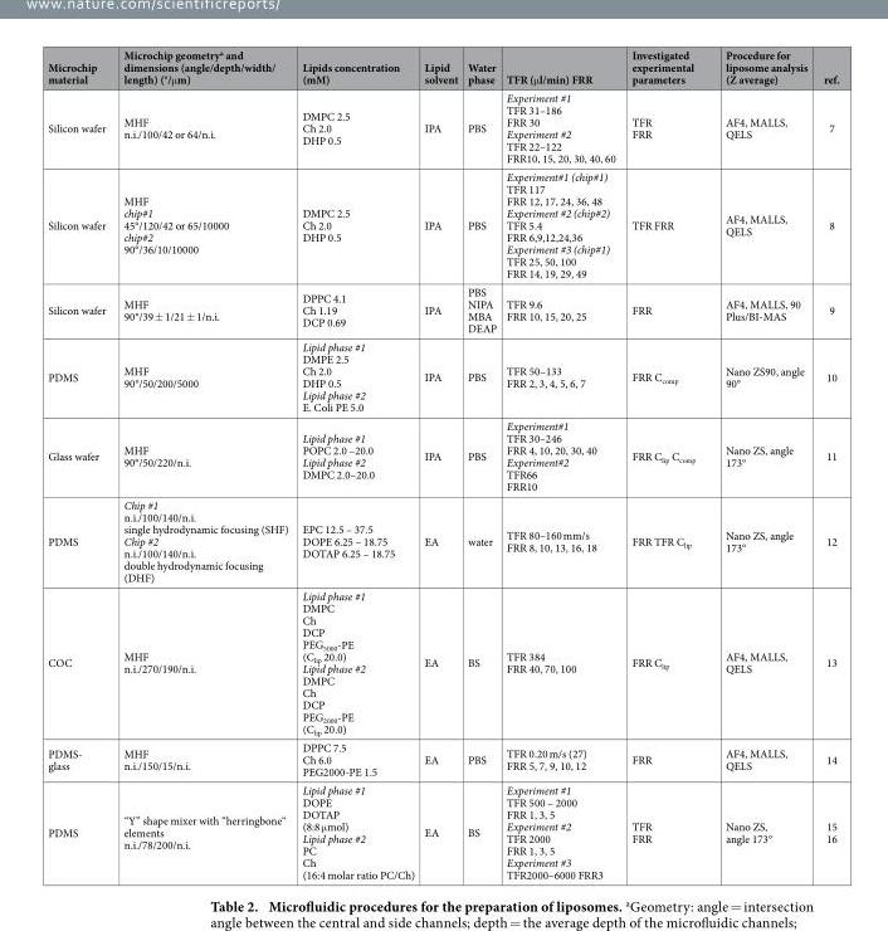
<table><thead><tr><td>Microchip material</td><td>Microchip geometry<sup>a</sup> and dimensions (angle/depth/width/ length) (°/μ m)</td><td>Lipids concentration (mM)</td><td>Lipid solvent</td><td>Water phase</td><td>TFR (μ l/min) FRR</td><td>Investigated experimental parameters</td><td>Procedure for liposome analysis (Z average)</td><td>ref.</td></tr></thead><tbody><tr><td>Silicon wafer</td><td>MHF n.i./100/42 or 64/n.i.</td><td>DMPC 2.5 Ch 2.0 DHP 0.5</td><td>IPA</td><td>PBS</td><td>Experiment #1 TFR 31–186 FRR 30 Experiment #2 TFR 22–122 FRR10, 15, 20, 30, 40, 60</td><td>TFR FRR</td><td>AF4, MALLS, QELS</td><td>7</td></tr><tr><td>Silicon wafer</td><td>MHF chip#1 45°/120/42 or 65/10000 chip#2 90°/36/10/10000</td><td>DMPC 2.5 Ch 2.0 DHP 0.5</td><td>IPA</td><td>PBS</td><td>Experiment#1 (chip#1) TFR 117 FRR 12, 17, 24, 36, 48 Experiment #2 (chip#2) TFR 5.4 FRR 6,9,12,24,36 Experiment #3 (chip#1) TFR 25, 50, 100 FRR 14, 19, 29, 49</td><td>TFR FRR</td><td>AF4, MALLS, QELS</td><td>8</td></tr><tr><td>Silicon wafer</td><td>MHF 90°/39 ± 1/21 ± 1/n.i.</td><td>DPPC 4.1 Ch 1.19 DCP 0.69</td><td>IPA</td><td>PBS NIPA MBA DEAP</td><td>TFR 9.6 FRR 10, 15, 20, 25</td><td>FRR</td><td>AF4, MALLS, 90 Plus/BI-MAS</td><td>9</td></tr><tr><td>PDMS</td><td>MHF 90°/50/200/5000</td><td>Lipid phase #1 DMPE 2.5 Ch 2.0 DHP 0.5 Lipid phase #2 E. Coli PE 5.0</td><td>IPA</td><td>PBS</td><td>TFR 50–133 FRR 2, 3, 4, 5, 6, 7</td><td>FRR C<sub>comp</sub></td><td>Nano ZS90, angle 90°</td><td>10</td></tr><tr><td>Glass wafer</td><td>MHF 90°/50/220/n.i.</td><td>Lipid phase #1 POPC 2.0 –20.0 Lipid phase #2 DMPC 2.0–20.0</td><td>IPA</td><td>PBS</td><td>Experiment#1 TFR 30–246 FRR 4, 10, 20, 30, 40 Experiment#2 TFR66 FRR10</td><td>FRR C<sub>lip</sub> C<sub>comp</sub></td><td>Nano ZS, angle 173°</td><td>11</td></tr><tr><td>PDMS</td><td>Chip #1 n.i./100/140/n.i. single hydrodynamic focusing (SHF) Chip #2 n.i./100/140/n.i. double hydrodynamic focusing (DHF)</td><td>EPC 12.5 – 37.5 DOPE 6.25 – 18.75 DOTAP 6.25 – 18.75</td><td>EA</td><td>water</td><td>TFR 80–160 mm/s FRR 8, 10, 13, 16, 18</td><td>FRR TFR C<sub>lip</sub></td><td>Nano ZS, angle 173°</td><td>12</td></tr><tr><td>COC</td><td>MHF n.i./270/190/n.i.</td><td>Lipid phase #1 DMPC Ch DCP PEG<sub>5000</sub>-PE (C<sub>lip</sub> 20.0) Lipid phase #2 DMPC Ch DCP PEG<sub>2000</sub>-PE (C<sub>lip</sub> 20.0)</td><td>EA</td><td>BS</td><td>TFR 384 FRR 40, 70, 100</td><td>FRR C<sub>lip</sub></td><td>AF4, MALLS, QELS</td><td>13</td></tr><tr><td>PDMS- glass</td><td>MHF n.i./150/15/n.i.</td><td>DPPC 7.5 Ch 6.0 PEG2000-PE 1.5</td><td>EA</td><td>PBS</td><td>TFR 0.20 m/s (27) FRR 5, 7, 9, 10, 12</td><td>FRR</td><td>AF4, MALLS, QELS</td><td>14</td></tr><tr><td>PDMS</td><td>“Y” shape mixer with “herringbone“ elements n.i./78/200/n.i.</td><td>Lipid phase #1 DOPE DOTAP (8:8 μ mol) Lipid phase #2 PC Ch (16:4 molar ratio PC/Ch)</td><td>EA</td><td>BS</td><td>Experiment #1 TFR 500 – 2000 FRR 1, 3, 5 Experiment #2 TFR 2000 FRR 1, 3, 5 Experiment #3 TFR2000–6000 FRR3</td><td>TFR FRR</td><td>Nano ZS, angle 173°</td><td>15 16</td></tr></tbody></table>